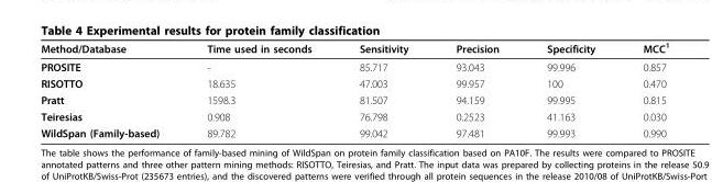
<table><thead><tr><td>Method/Database</td><td>Time used in seconds</td><td>Sensitivity</td><td>Precision</td><td>Specificity</td><td>MCC<sup>1</sup></td></tr></thead><tbody><tr><td>PROSITE</td><td>-</td><td>85.717</td><td>93.043</td><td>99.996</td><td>0.857</td></tr><tr><td>RISOTTO</td><td>18.635</td><td>47.003</td><td>99.957</td><td>100</td><td>0.470</td></tr><tr><td>Pratt</td><td>1598.3</td><td>81.507</td><td>94.159</td><td>99.995</td><td>0.815</td></tr><tr><td>Teiresias</td><td>0.908</td><td>76.798</td><td>0.2523</td><td>41.163</td><td>0.030</td></tr><tr><td>WildSpan (Family-based)</td><td>89.782</td><td>99.042</td><td>97.481</td><td>99.993</td><td>0.990</td></tr></tbody></table>